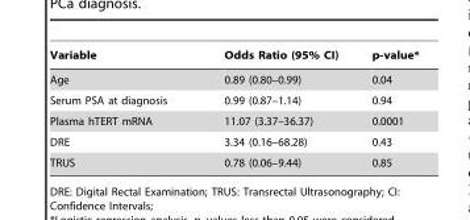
<table><thead><tr><td>Variable</td><td>Odds Ratio (95% CI)</td><td>p-value*</td></tr></thead><tbody><tr><td>Age</td><td>0.89 (0.80–0.99)</td><td>0.04</td></tr><tr><td>Serum PSA at diagnosis</td><td>0.99 (0.87–1.14)</td><td>0.94</td></tr><tr><td>Plasma hTERT mRNA</td><td>11.07 (3.37–36.37)</td><td>0.0001</td></tr><tr><td>DRE</td><td>3.34 (0.16–68.28)</td><td>0.43</td></tr><tr><td>TRUS</td><td>0.78 (0.06–9.44)</td><td>0.85</td></tr></tbody></table>